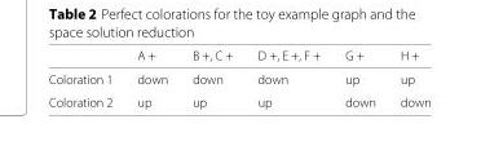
<table><thead><tr><td></td><td>A +</td><td>B +, C +</td><td>D +, E +, F +</td><td>G +</td><td>H +</td></tr></thead><tbody><tr><td>Coloration 1</td><td>down</td><td>down</td><td>down</td><td>up</td><td>up</td></tr><tr><td>Coloration 2</td><td>up</td><td>up</td><td>up</td><td>down</td><td>down</td></tr></tbody></table>